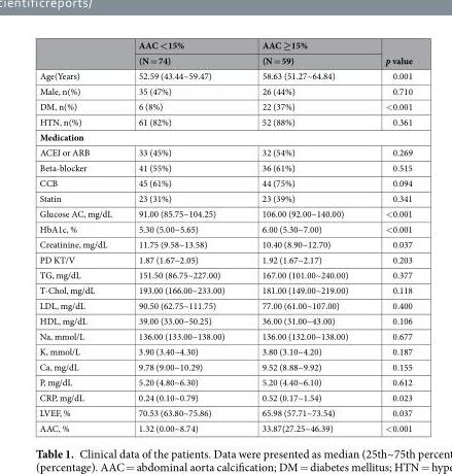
<table><thead><tr><td rowspan="2"></td><td rowspan="2">AAC &lt;15% (N = 74)</td><td rowspan="2">AAC ≥15% (N = 59)</td><td rowspan="2">p value</td></tr><tr></tr></thead><tbody><tr><td>Age(Years)</td><td>52.59 (43.44~59.47)</td><td>58.63 (51.27~64.84)</td><td>0.001</td></tr><tr><td>Male, n(%)</td><td>35 (47%)</td><td>26 (44%)</td><td>0.710</td></tr><tr><td>DM, n(%)</td><td>6 (8%)</td><td>22 (37%)</td><td>&lt;0.001</td></tr><tr><td>HTN, n(%)</td><td>61 (82%)</td><td>52 (88%)</td><td>0.361</td></tr><tr><td colspan="4">Medication</td></tr><tr><td>ACEI or ARB</td><td>33 (45%)</td><td>32 (54%)</td><td>0.269</td></tr><tr><td>Beta-blocker</td><td>41 (55%)</td><td>36 (61%)</td><td>0.515</td></tr><tr><td>CCB</td><td>45 (61%)</td><td>44 (75%)</td><td>0.094</td></tr><tr><td>Statin</td><td>23 (31%)</td><td>23 (39%)</td><td>0.341</td></tr><tr><td>Glucose AC, mg/dL</td><td>91.00 (85.75~104.25)</td><td>106.00 (92.00~140.00)</td><td>&lt;0.001</td></tr><tr><td>HbA1c, %</td><td>5.30 (5.00~5.65)</td><td>6.00 (5.30~7.00)</td><td>&lt;0.001</td></tr><tr><td>Creatinine, mg/dL</td><td>11.75 (9.58~13.58)</td><td>10.40 (8.90~12.70)</td><td>0.037</td></tr><tr><td>PD KT/V</td><td>1.87 (1.67~2.05)</td><td>1.92 (1.67~2.17)</td><td>0.203</td></tr><tr><td>TG, mg/dL</td><td>151.50 (86.75~227.00)</td><td>167.00 (101.00~240.00)</td><td>0.377</td></tr><tr><td>T-Chol, mg/dL</td><td>193.00 (166.00~233.00)</td><td>181.00 (149.00~219.00)</td><td>0.118</td></tr><tr><td>LDL, mg/dL</td><td>90.50 (62.75~111.75)</td><td>77.00 (61.00~107.00)</td><td>0.400</td></tr><tr><td>HDL, mg/dL</td><td>39.00 (33.00~50.25)</td><td>36.00 (31.00~43.00)</td><td>0.106</td></tr><tr><td>Na, mmol/L</td><td>136.00 (133.00~138.00)</td><td>136.00 (132.00~138.00)</td><td>0.677</td></tr><tr><td>K, mmol/L</td><td>3.90 (3.40~4.30)</td><td>3.80 (3.10~4.20)</td><td>0.187</td></tr><tr><td>Ca, mg/dL</td><td>9.78 (9.00~10.29)</td><td>9.52 (8.88~9.92)</td><td>0.155</td></tr><tr><td>P, mg/dL</td><td>5.20 (4.80~6.30)</td><td>5.20 (4.40~6.10)</td><td>0.612</td></tr><tr><td>CRP, mg/dL</td><td>0.24 (0.10~0.79)</td><td>0.52 (0.17~1.54)</td><td>0.023</td></tr><tr><td>LVEF, %</td><td>70.53 (63.80~75.86)</td><td>65.98 (57.71~73.54)</td><td>0.037</td></tr><tr><td>AAC, %</td><td>1.32 (0.00~8.74)</td><td>33.87(27.25~46.39)</td><td>&lt;0.001</td></tr></tbody></table>